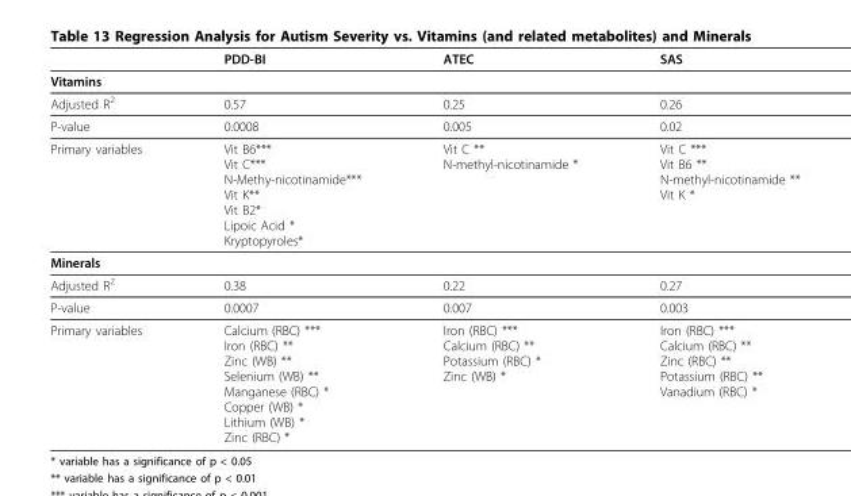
<table><thead><tr><td></td><td>PDD-BI</td><td>ATEC</td><td>SAS</td></tr></thead><tbody><tr><td colspan="4">Vitamins</td></tr><tr><td>Adjusted R<sup>2</sup></td><td>0.57</td><td>0.25</td><td>0.26</td></tr><tr><td>P-value</td><td>0.0008</td><td>0.005</td><td>0.02</td></tr><tr><td>Primary variables</td><td>Vit B6*** Vit C*** N-Methy-nicotinamide*** Vit K** Vit B2* Lipoic Acid * Kryptopyroles*</td><td>Vit C ** N-methyl-nicotinamide *</td><td>Vit C *** Vit B6 ** N-methyl-nicotinamide ** Vit K *</td></tr><tr><td colspan="4">Minerals</td></tr><tr><td>Adjusted R<sup>2</sup></td><td>0.38</td><td>0.22</td><td>0.27</td></tr><tr><td>P-value</td><td>0.0007</td><td>0.007</td><td>0.003</td></tr><tr><td>Primary variables</td><td>Calcium (RBC) *** Iron (RBC) ** Zinc (WB) ** Selenium (WB) ** Manganese (RBC) * Copper (WB) * Lithium (WB) * Zinc (RBC) *</td><td>Iron (RBC) *** Calcium (RBC) ** Potassium (RBC) * Zinc (WB) *</td><td>Iron (RBC) *** Calcium (RBC) ** Zinc (RBC) ** Potassium (RBC) ** Vanadium (RBC) *</td></tr></tbody></table>